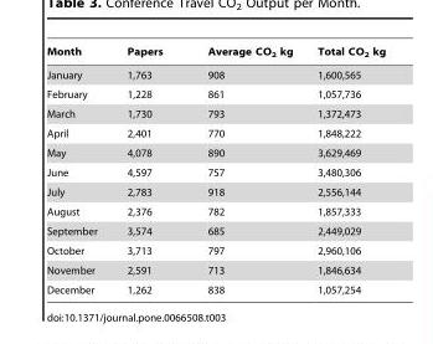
<table><thead><tr><td>Month</td><td>Papers</td><td>Average CO<sub>2</sub> kg</td><td>Total CO<sub>2</sub> kg</td></tr></thead><tbody><tr><td>January</td><td>1,763</td><td>908</td><td>1,600,565</td></tr><tr><td>February</td><td>1,228</td><td>861</td><td>1,057,736</td></tr><tr><td>March</td><td>1,730</td><td>793</td><td>1,372,473</td></tr><tr><td>April</td><td>2,401</td><td>770</td><td>1,848,222</td></tr><tr><td>May</td><td>4,078</td><td>890</td><td>3,629,469</td></tr><tr><td>June</td><td>4,597</td><td>757</td><td>3,480,306</td></tr><tr><td>July</td><td>2,783</td><td>918</td><td>2,556,144</td></tr><tr><td>August</td><td>2,376</td><td>782</td><td>1,857,333</td></tr><tr><td>September</td><td>3,574</td><td>685</td><td>2,449,029</td></tr><tr><td>October</td><td>3,713</td><td>797</td><td>2,960,106</td></tr><tr><td>November</td><td>2,591</td><td>713</td><td>1,846,634</td></tr><tr><td>December</td><td>1,262</td><td>838</td><td>1,057,254</td></tr></tbody></table>